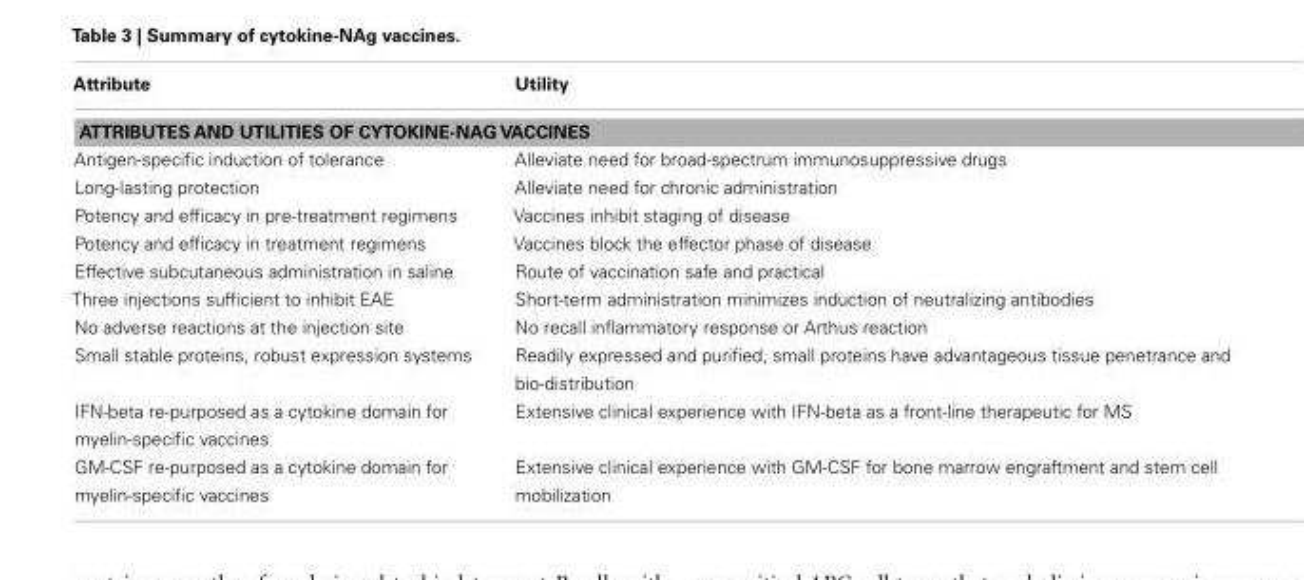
<table><thead><tr><td>Attribute</td><td>Utility</td></tr></thead><tbody><tr><td colspan="2">ATTRIBUTES AND UTILITIES OF CYTOKINE-NAG VACCINES</td></tr><tr><td>Antigen-specific induction of tolerance</td><td>Alleviate need for broad-spectrum immunosuppressive drugs</td></tr><tr><td>Long-lasting protection</td><td>Alleviate need for chronic administration</td></tr><tr><td>Potency and efficacy in pre-treatment regimens</td><td>Vaccines inhibit staging of disease</td></tr><tr><td>Potency and efficacy in treatment regimens</td><td>Vaccines block the effector phase of disease</td></tr><tr><td>Effective subcutaneous administration in saline</td><td>Route of vaccination safe and practical</td></tr><tr><td>Three injections sufficient to inhibit EAE</td><td>Short-term administration minimizes induction of neutralizing antibodies</td></tr><tr><td>No adverse reactions at the injection site</td><td>No recall inflammatory response or Arthus reaction</td></tr><tr><td>Small stable proteins, robust expression systems</td><td>Readily expressed and purified, small proteins have advantageous tissue penetrance and bio-distribution</td></tr><tr><td>IFN-beta re-purposed as a cytokine domain for myelin-specific vaccines</td><td>Extensive clinical experience with IFN-beta as a front-line therapeutic for MS</td></tr><tr><td>GM-CSF re-purposed as a cytokine domain for myelin-specific vaccines</td><td>Extensive clinical experience with GM-CSF for bone marrow engraftment and stem cell mobilization</td></tr></tbody></table>